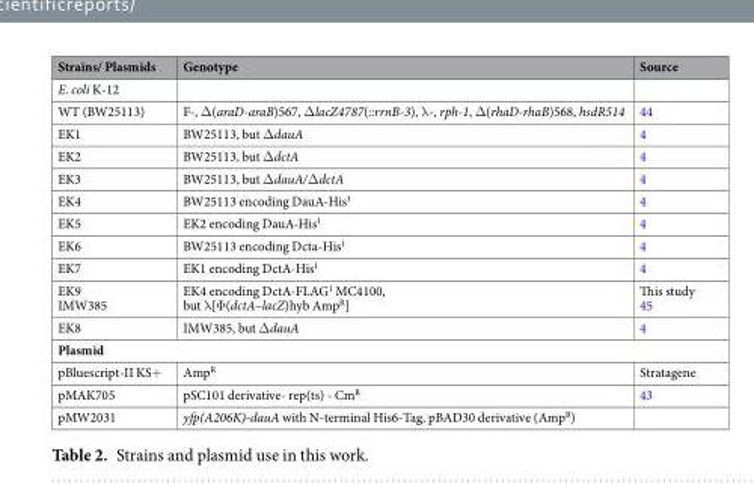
<table><thead><tr><td>Strains/ Plasmids</td><td>Genotype</td><td>Source</td></tr></thead><tbody><tr><td colspan="3">E. coli K-12</td></tr><tr><td>WT (BW25113)</td><td>F-, Δ(araD-araB)567, ΔlacZ4787(::rrnB-3), λ-, rph-1, Δ(rhaD-rhaB)568, hsdR514</td><td>44</td></tr><tr><td>EK1</td><td>BW25113, but ΔdauA</td><td>4</td></tr><tr><td>EK2</td><td>BW25113, but ΔdctA</td><td>4</td></tr><tr><td>EK3</td><td>BW25113, but ΔdauA/ΔdctA</td><td>4</td></tr><tr><td>EK4</td><td>BW25113 encoding DauA-His<sup>1</sup></td><td>4</td></tr><tr><td>EK5</td><td>EK2 encoding DauA-His<sup>1</sup></td><td>4</td></tr><tr><td>EK6</td><td>BW25113 encoding Dcta-His<sup>1</sup></td><td>4</td></tr><tr><td>EK7</td><td>EK1 encoding DctA-His<sup>1</sup></td><td>4</td></tr><tr><td>EK9 IMW385</td><td>EK4 encoding DctA-FLAG<sup>1</sup> MC4100, but λ[Φ(dctA–lacZ)hyb Amp<sup>R</sup>]</td><td>This study <sup>45</sup></td></tr><tr><td>EK8</td><td>IMW385, but ΔdauA</td><td>4</td></tr><tr><td colspan="3">Plasmid</td></tr><tr><td>pBluescript-II KS+</td><td>Amp<sup>R</sup></td><td>Stratagene</td></tr><tr><td>pMAK705</td><td>pSC101 derivative- rep(ts) - Cm<sup>R</sup></td><td>43</td></tr><tr><td>pMW2031</td><td>yfp(A206K)-dauA with N-terminal His6-Tag, pBAD30 derivative (Amp<sup>R</sup>)</td><td></td></tr></tbody></table>